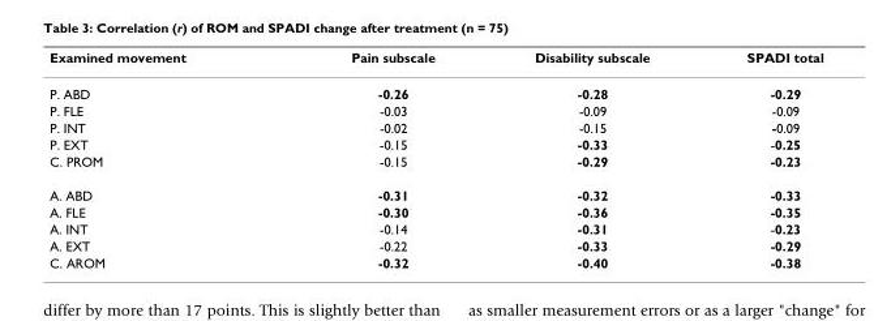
<table><thead><tr><td>Examined movement</td><td>Pain subscale</td><td>Disability subscale</td><td>SPADI total</td></tr></thead><tbody><tr><td>P. ABD</td><td>-0.26</td><td>-0.28</td><td>-0.29</td></tr><tr><td>P. FLE</td><td>-0.03</td><td>-0.09</td><td>-0.09</td></tr><tr><td>P. INT</td><td>-0.02</td><td>-0.15</td><td>-0.09</td></tr><tr><td>P. EXT</td><td>-0.15</td><td>-0.33</td><td>-0.25</td></tr><tr><td>C. PROM</td><td>-0.15</td><td>-0.29</td><td>-0.23</td></tr><tr><td>A. ABD</td><td>-0.31</td><td>-0.32</td><td>-0.33</td></tr><tr><td>A. FLE</td><td>-0.30</td><td>-0.36</td><td>-0.35</td></tr><tr><td>A. INT</td><td>-0.14</td><td>-0.31</td><td>-0.23</td></tr><tr><td>A. EXT</td><td>-0.22</td><td>-0.33</td><td>-0.29</td></tr><tr><td>C. AROM</td><td>-0.32</td><td>-0.40</td><td>-0.38</td></tr></tbody></table>